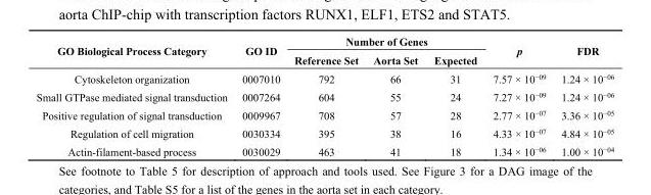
<table><thead><tr><td rowspan="2">GO Biological Process Category</td><td rowspan="2">GO ID</td><td colspan="3">Number of Genes</td><td rowspan="2">p</td><td rowspan="2">FDR</td></tr><tr><td>Reference Set</td><td>Aorta Set</td><td>Expected</td></tr></thead><tbody><tr><td>Cytoskeleton organization</td><td>0007010</td><td>792</td><td>66</td><td>31</td><td>7.57 × 10<sup>−09</sup></td><td>1.24 × 10<sup>−06</sup></td></tr><tr><td>Small GTPase mediated signal transduction</td><td>0007264</td><td>604</td><td>55</td><td>24</td><td>7.27 × 10<sup>−09</sup></td><td>1.24 × 10<sup>−06</sup></td></tr><tr><td>Positive regulation of signal transduction</td><td>0009967</td><td>708</td><td>57</td><td>28</td><td>2.77 × 10<sup>−07</sup></td><td>3.36 × 10<sup>−05</sup></td></tr><tr><td>Regulation of cell migration</td><td>0030334</td><td>395</td><td>38</td><td>16</td><td>4.33 × 10<sup>−07</sup></td><td>4.84 × 10<sup>−05</sup></td></tr><tr><td>Actin-filament-based process</td><td>0030029</td><td>463</td><td>41</td><td>18</td><td>1.34 × 10<sup>−06</sup></td><td>1.00 × 10<sup>−04</sup></td></tr></tbody></table>